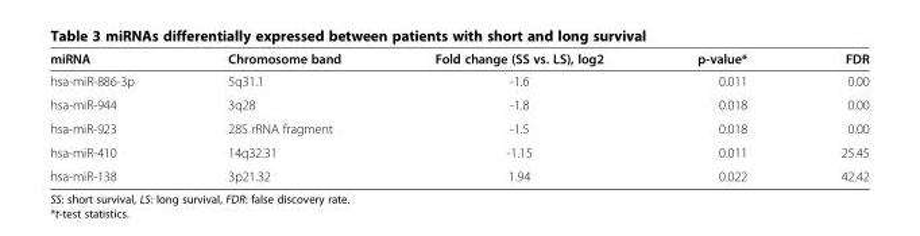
<table><thead><tr><td>miRNA</td><td>Chromosome band</td><td>Fold change (SS vs. LS), log2</td><td>p-value*</td><td>FDR</td></tr></thead><tbody><tr><td>hsa-miR-886-3p</td><td>5q31.1</td><td>-1.6</td><td>0.011</td><td>0.00</td></tr><tr><td>hsa-miR-944</td><td>3q28</td><td>-1.8</td><td>0.018</td><td>0.00</td></tr><tr><td>hsa-miR-923</td><td>28S rRNA fragment</td><td>-1.5</td><td>0.018</td><td>0.00</td></tr><tr><td>hsa-miR-410</td><td>14q32.31</td><td>-1.15</td><td>0.011</td><td>25.45</td></tr><tr><td>hsa-miR-138</td><td>3p21.32</td><td>1.94</td><td>0.022</td><td>42.42</td></tr></tbody></table>